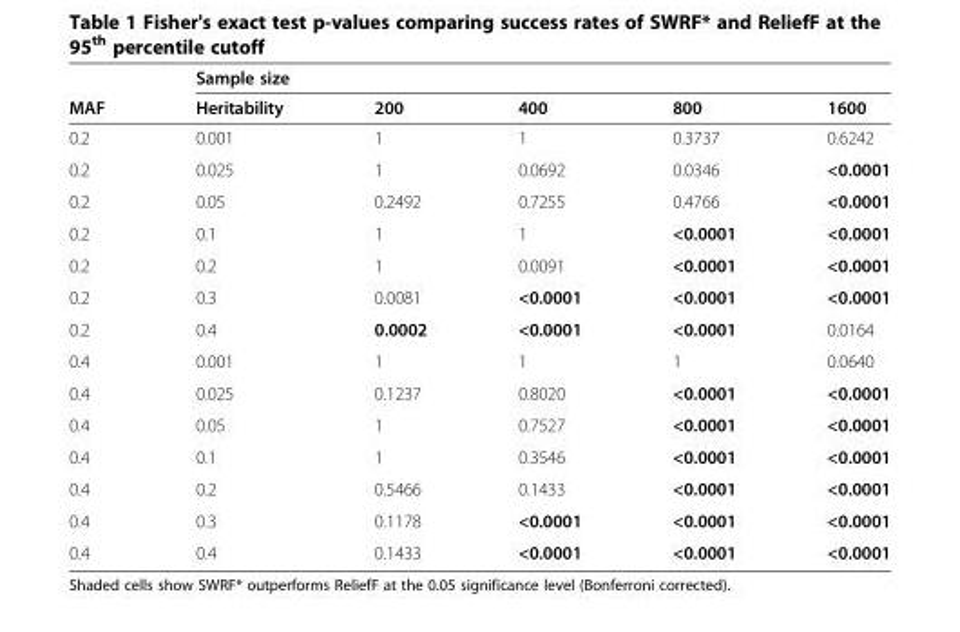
<table><thead><tr><td rowspan="2">MAF</td><td colspan="5">Sample size</td></tr><tr><td>Heritability</td><td>200</td><td>400</td><td>800</td><td>1600</td></tr></thead><tbody><tr><td>0.2</td><td>0.001</td><td>1</td><td>1</td><td>0.3737</td><td>0.6242</td></tr><tr><td>0.2</td><td>0.025</td><td>1</td><td>0.0692</td><td>0.0346</td><td>&lt;0.0001</td></tr><tr><td>0.2</td><td>0.05</td><td>0.2492</td><td>0.7255</td><td>0.4766</td><td>&lt;0.0001</td></tr><tr><td>0.2</td><td>0.1</td><td>1</td><td>1</td><td>&lt;0.0001</td><td>&lt;0.0001</td></tr><tr><td>0.2</td><td>0.2</td><td>1</td><td>0.0091</td><td>&lt;0.0001</td><td>&lt;0.0001</td></tr><tr><td>0.2</td><td>0.3</td><td>0.0081</td><td>&lt;0.0001</td><td>&lt;0.0001</td><td>&lt;0.0001</td></tr><tr><td>0.2</td><td>0.4</td><td>0.0002</td><td>&lt;0.0001</td><td>&lt;0.0001</td><td>0.0164</td></tr><tr><td>0.4</td><td>0.001</td><td>1</td><td>1</td><td>1</td><td>0.0640</td></tr><tr><td>0.4</td><td>0.025</td><td>0.1237</td><td>0.8020</td><td>&lt;0.0001</td><td>&lt;0.0001</td></tr><tr><td>0.4</td><td>0.05</td><td>1</td><td>0.7527</td><td>&lt;0.0001</td><td>&lt;0.0001</td></tr><tr><td>0.4</td><td>0.1</td><td>1</td><td>0.3546</td><td>&lt;0.0001</td><td>&lt;0.0001</td></tr><tr><td>0.4</td><td>0.2</td><td>0.5466</td><td>0.1433</td><td>&lt;0.0001</td><td>&lt;0.0001</td></tr><tr><td>0.4</td><td>0.3</td><td>0.1178</td><td>&lt;0.0001</td><td>&lt;0.0001</td><td>&lt;0.0001</td></tr><tr><td>0.4</td><td>0.4</td><td>0.1433</td><td>&lt;0.0001</td><td>&lt;0.0001</td><td>&lt;0.0001</td></tr></tbody></table>